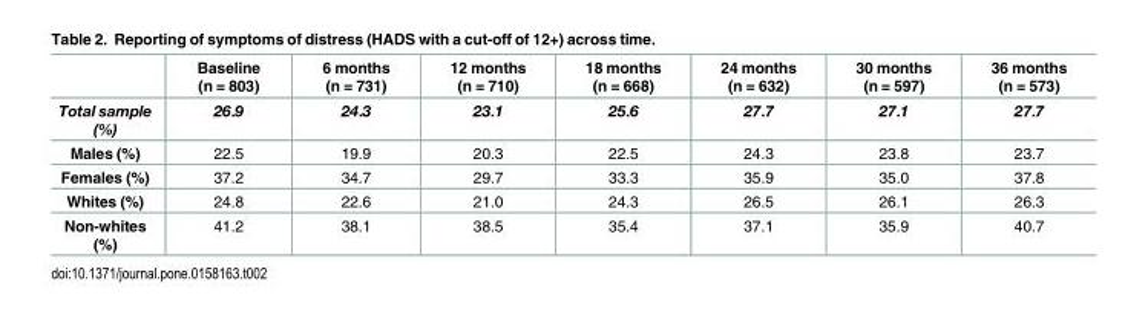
<table><thead><tr><td></td><td>Baseline (n = 803)</td><td>6 months (n = 731)</td><td>12 months (n = 710)</td><td>18 months (n = 668)</td><td>24 months (n = 632)</td><td>30 months (n = 597)</td><td>36 months (n = 573)</td></tr></thead><tbody><tr><td>Total sample (%)</td><td>26.9</td><td>24.3</td><td>23.1</td><td>25.6</td><td>27.7</td><td>27.1</td><td>27.7</td></tr><tr><td>Males (%)</td><td>22.5</td><td>19.9</td><td>20.3</td><td>22.5</td><td>24.3</td><td>23.8</td><td>23.7</td></tr><tr><td>Females (%)</td><td>37.2</td><td>34.7</td><td>29.7</td><td>33.3</td><td>35.9</td><td>35.0</td><td>37.8</td></tr><tr><td>Whites (%)</td><td>24.8</td><td>22.6</td><td>21.0</td><td>24.3</td><td>26.5</td><td>26.1</td><td>26.3</td></tr><tr><td>Non-whites (%)</td><td>41.2</td><td>38.1</td><td>38.5</td><td>35.4</td><td>37.1</td><td>35.9</td><td>40.7</td></tr></tbody></table>